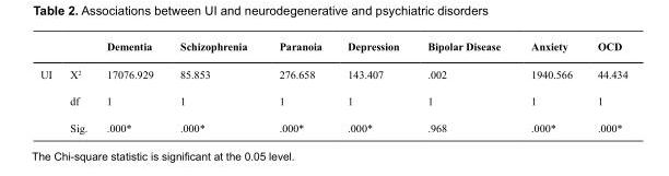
<table><thead><tr><td></td><td></td><td>Dementia</td><td>Schizophrenia</td><td>Paranoia</td><td>Depression</td><td>Bipolar Disease</td><td>Anxiety</td><td>OCD</td></tr></thead><tbody><tr><td rowspan="3">UI</td><td>Χ<sup>2</sup></td><td>17076.929</td><td>85.853</td><td>276.658</td><td>143.407</td><td>.002</td><td>1940.566</td><td>44.434</td></tr><tr><td>df</td><td>1</td><td>1</td><td>1</td><td>1</td><td>1</td><td>1</td><td>1</td></tr><tr><td>Sig.</td><td>.000*</td><td>.000*</td><td>.000*</td><td>.000*</td><td>.968</td><td>.000*</td><td>.000*</td></tr></tbody></table>